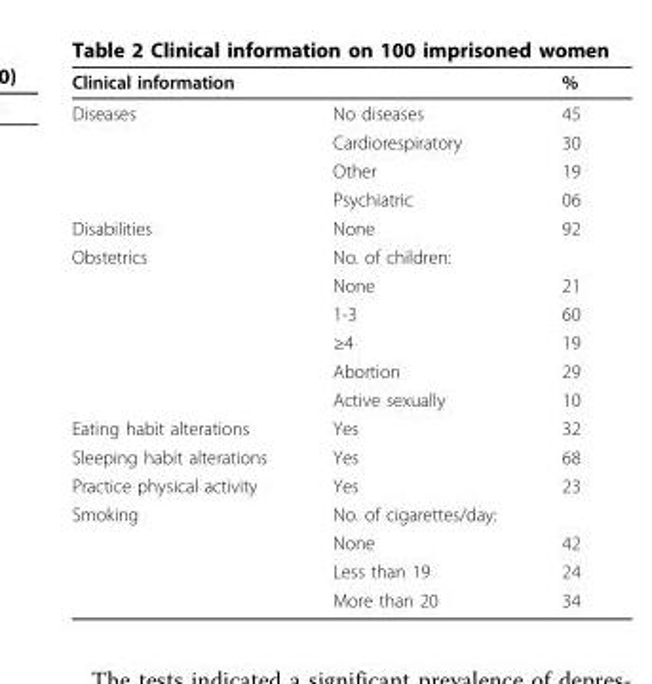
<table><thead><tr><td>Clinical information</td><td></td><td>%</td></tr></thead><tbody><tr><td rowspan="4">Diseases</td><td>No diseases</td><td>45</td></tr><tr><td>Cardiorespiratory</td><td>30</td></tr><tr><td>Other</td><td>19</td></tr><tr><td>Psychiatric</td><td>06</td></tr><tr><td>Disabilities</td><td>None</td><td>92</td></tr><tr><td rowspan="6">Obstetrics</td><td>No. of children:</td><td></td></tr><tr><td>None</td><td>21</td></tr><tr><td>1-3</td><td>60</td></tr><tr><td>≥4</td><td>19</td></tr><tr><td>Abortion</td><td>29</td></tr><tr><td>Active sexually</td><td>10</td></tr><tr><td>Eating habit alterations</td><td>Yes</td><td>32</td></tr><tr><td>Sleeping habit alterations</td><td>Yes</td><td>68</td></tr><tr><td>Practice physical activity</td><td>Yes</td><td>23</td></tr><tr><td rowspan="4">Smoking</td><td>No. of cigarettes/day:</td><td></td></tr><tr><td>None</td><td>42</td></tr><tr><td>Less than 19</td><td>24</td></tr><tr><td>More than 20</td><td>34</td></tr></tbody></table>